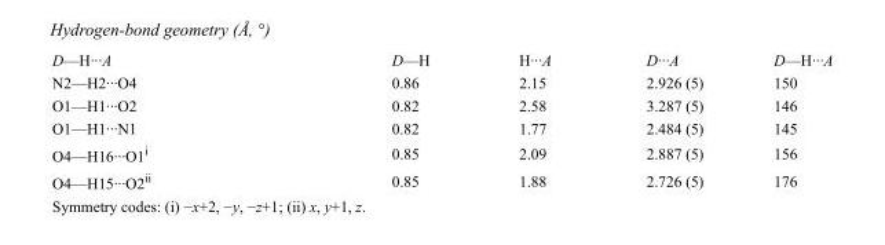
<table><tbody><tr><td>D—H···A</td><td>D—H</td><td>H···A</td><td>D···A</td><td>D—H···A</td></tr><tr><td>N2—H2···O4</td><td>0.86</td><td>2.15</td><td>2.926 (5)</td><td>150</td></tr><tr><td>O1—H1···O2</td><td>0.82</td><td>2.58</td><td>3.287 (5)</td><td>146</td></tr><tr><td>O1—H1···N1</td><td>0.82</td><td>1.77</td><td>2.484 (5)</td><td>145</td></tr><tr><td>O4—H16···O1<sup>i</sup></td><td>0.85</td><td>2.09</td><td>2.887 (5)</td><td>156</td></tr><tr><td>O4—H15···O2<sup>ii</sup></td><td>0.85</td><td>1.88</td><td>2.726 (5)</td><td>176</td></tr></tbody></table>